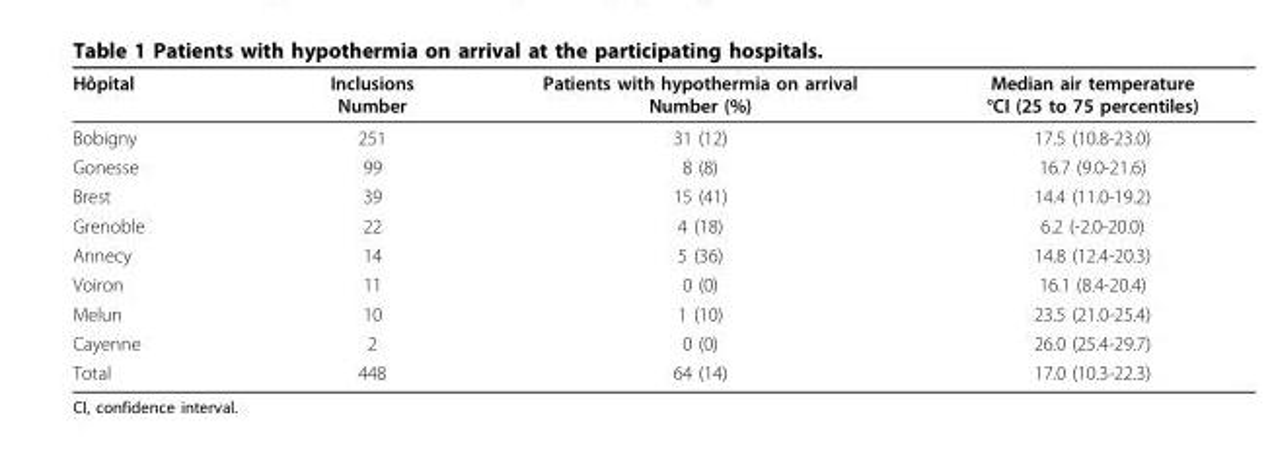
<table><thead><tr><td>Hôpital</td><td>Inclusions Number</td><td>Patients with hypothermia on arrival Number (%)</td><td>Median air temperature °CI (25 to 75 percentiles)</td></tr></thead><tbody><tr><td>Bobigny</td><td>251</td><td>31 (12)</td><td>17.5 (10.8-23.0)</td></tr><tr><td>Gonesse</td><td>99</td><td>8 (8)</td><td>16.7 (9.0-21.6)</td></tr><tr><td>Brest</td><td>39</td><td>15 (41)</td><td>14.4 (11.0-19.2)</td></tr><tr><td>Grenoble</td><td>22</td><td>4 (18)</td><td>6.2 (-2.0-20.0)</td></tr><tr><td>Annecy</td><td>14</td><td>5 (36)</td><td>14.8 (12.4-20.3)</td></tr><tr><td>Voiron</td><td>11</td><td>0 (0)</td><td>16.1 (8.4-20.4)</td></tr><tr><td>Melun</td><td>10</td><td>1 (10)</td><td>23.5 (21.0-25.4)</td></tr><tr><td>Cayenne</td><td>2</td><td>0 (0)</td><td>26.0 (25.4-29.7)</td></tr><tr><td>Total</td><td>448</td><td>64 (14)</td><td>17.0 (10.3-22.3)</td></tr></tbody></table>